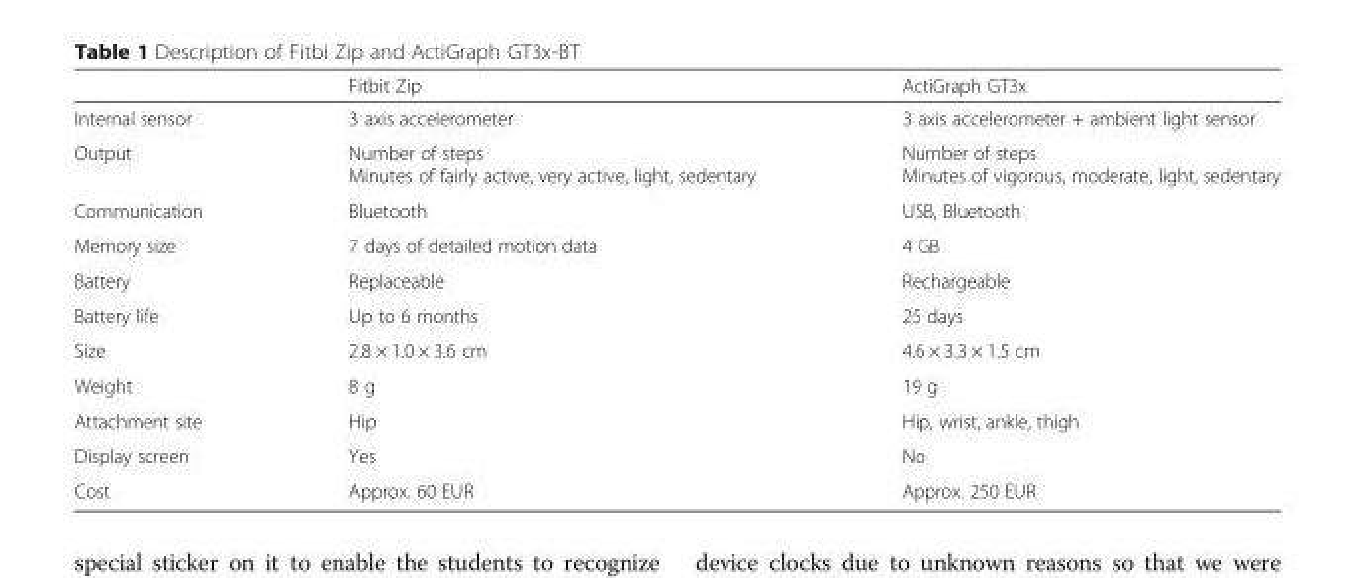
<table><thead><tr><td></td><td>Fitbit Zip</td><td>ActiGraph GT3x</td></tr></thead><tbody><tr><td>Internal sensor</td><td>3 axis accelerometer</td><td>3 axis accelerometer + ambient light sensor</td></tr><tr><td>Output</td><td>Number of steps Minutes of fairly active, very active, light, sedentary</td><td>Number of steps Minutes of vigorous, moderate, light, sedentary</td></tr><tr><td>Communication</td><td>Bluetooth</td><td>USB, Bluetooth</td></tr><tr><td>Memory size</td><td>7 days of detailed motion data</td><td>4 GB</td></tr><tr><td>Battery</td><td>Replaceable</td><td>Rechargeable</td></tr><tr><td>Battery life</td><td>Up to 6 months</td><td>25 days</td></tr><tr><td>Size</td><td>2.8 × 1.0 × 3.6 cm</td><td>4.6 × 3.3 × 1.5 cm</td></tr><tr><td>Weight</td><td>8 g</td><td>19 g</td></tr><tr><td>Attachment site</td><td>Hip</td><td>Hip, wrist, ankle, thigh</td></tr><tr><td>Display screen</td><td>Yes</td><td>No</td></tr><tr><td>Cost</td><td>Approx. 60 EUR</td><td>Approx. 250 EUR</td></tr></tbody></table>